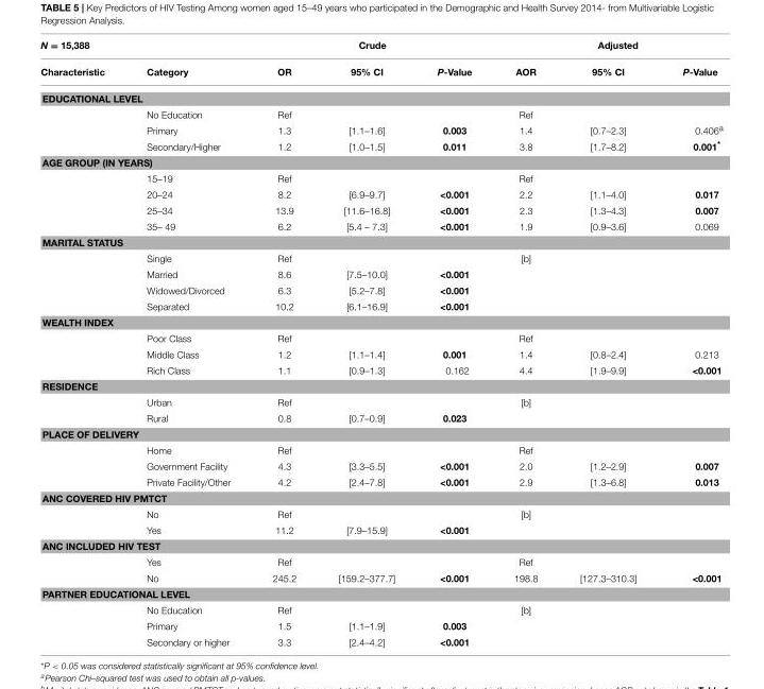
<table><thead><tr><td rowspan="2">N = 15,388 Characteristic</td><td rowspan="2">Category</td><td colspan="3">Crude</td><td colspan="3">Adjusted</td></tr><tr><td>OR</td><td>95% CI</td><td>P-Value</td><td>AOR</td><td>95% CI</td><td>P-Value</td></tr></thead><tbody><tr><td colspan="8">EDUCATIONAL LEVEL</td></tr><tr><td></td><td>No Education</td><td>Ref</td><td></td><td></td><td>Ref</td><td></td><td></td></tr><tr><td></td><td>Primary</td><td>1.3</td><td>[1.1–1.6]</td><td>0.003</td><td>1.4</td><td>[0.7–2.3]</td><td>0.406<sup>a</sup></td></tr><tr><td></td><td>Secondary/Higher</td><td>1.2</td><td>[1.0–1.5]</td><td>0.011</td><td>3.8</td><td>[1.7–8.2]</td><td>0.001*</td></tr><tr><td colspan="8">AGE GROUP (IN YEARS)</td></tr><tr><td></td><td>15–19</td><td>Ref</td><td></td><td></td><td>Ref</td><td></td><td></td></tr><tr><td></td><td>20–24</td><td>8.2</td><td>[6.9–9.7]</td><td>&lt;0.001</td><td>2.2</td><td>[1.1–4.0]</td><td>0.017</td></tr><tr><td></td><td>25–34</td><td>13.9</td><td>[11.6–16.8]</td><td>&lt;0.001</td><td>2.3</td><td>[1.3–4.3]</td><td>0.007</td></tr><tr><td></td><td>35– 49</td><td>6.2</td><td>[5.4 – 7.3]</td><td>&lt;0.001</td><td>1.9</td><td>[0.9–3.6]</td><td>0.069</td></tr><tr><td colspan="8">MARITAL STATUS</td></tr><tr><td></td><td>Single</td><td>Ref</td><td></td><td></td><td>[b]</td><td></td><td></td></tr><tr><td></td><td>Married</td><td>8.6</td><td>[7.5–10.0]</td><td>&lt;0.001</td><td></td><td></td><td></td></tr><tr><td></td><td>Widowed/Divorced</td><td>6.3</td><td>[5.2–7.8]</td><td>&lt;0.001</td><td></td><td></td><td></td></tr><tr><td></td><td>Separated</td><td>10.2</td><td>[6.1–16.9]</td><td>&lt;0.001</td><td></td><td></td><td></td></tr><tr><td colspan="8">WEALTH INDEX</td></tr><tr><td></td><td>Poor Class</td><td>Ref</td><td></td><td></td><td>Ref</td><td></td><td></td></tr><tr><td></td><td>Middle Class</td><td>1.2</td><td>[1.1–1.4]</td><td>0.001</td><td>1.4</td><td>[0.8–2.4]</td><td>0.213</td></tr><tr><td></td><td>Rich Class</td><td>1.1</td><td>[0.9–1.3]</td><td>0.162</td><td>4.4</td><td>[1.9–9.9]</td><td>&lt;0.001</td></tr><tr><td colspan="8">RESIDENCE</td></tr><tr><td></td><td>Urban</td><td>Ref</td><td></td><td></td><td>[b]</td><td></td><td></td></tr><tr><td></td><td>Rural</td><td>0.8</td><td>[0.7–0.9]</td><td>0.023</td><td></td><td></td><td></td></tr><tr><td colspan="8">PLACE OF DELIVERY</td></tr><tr><td></td><td>Home</td><td>Ref</td><td></td><td></td><td>Ref</td><td></td><td></td></tr><tr><td></td><td>Government Facility</td><td>4.3</td><td>[3.3–5.5]</td><td>&lt;0.001</td><td>2.0</td><td>[1.2–2.9]</td><td>0.007</td></tr><tr><td></td><td>Private Facility/Other</td><td>4.2</td><td>[2.4–7.8]</td><td>&lt;0.001</td><td>2.9</td><td>[1.3–6.8]</td><td>0.013</td></tr><tr><td colspan="8">ANC COVERED HIV PMTCT</td></tr><tr><td></td><td>No</td><td>Ref</td><td></td><td></td><td>[b]</td><td></td><td></td></tr><tr><td></td><td>Yes</td><td>11.2</td><td>[7.9–15.9]</td><td>&lt;0.001</td><td></td><td></td><td></td></tr><tr><td colspan="8">ANC INCLUDED HIV TEST</td></tr><tr><td></td><td>Yes</td><td>Ref</td><td></td><td></td><td>Ref</td><td></td><td></td></tr><tr><td></td><td>No</td><td>245.2</td><td>[159.2–377.7]</td><td>&lt;0.001</td><td>198.8</td><td>[127.3–310.3]</td><td>&lt;0.001</td></tr><tr><td colspan="8">PARTNER EDUCATIONAL LEVEL</td></tr><tr><td></td><td>No Education</td><td>Ref</td><td></td><td></td><td>[b]</td><td></td><td></td></tr><tr><td></td><td>Primary</td><td>1.5</td><td>[1.1–1.9]</td><td>0.003</td><td></td><td></td><td></td></tr><tr><td></td><td>Secondary or higher</td><td>3.3</td><td>[2.4–4.2]</td><td>&lt;0.001</td><td></td><td></td><td></td></tr></tbody></table>